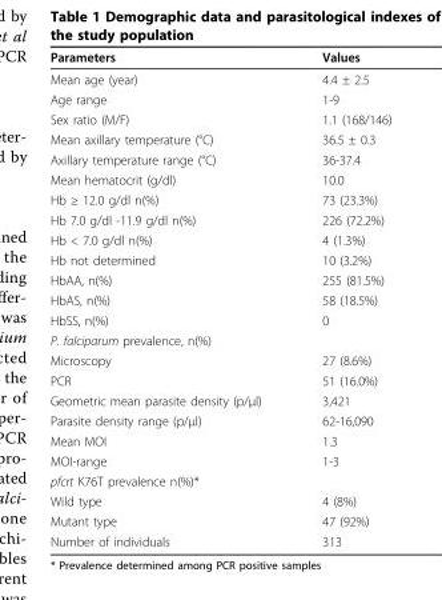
<table><thead><tr><td>Parameters</td><td>Values</td></tr></thead><tbody><tr><td>Mean age (year)</td><td>4.4 ± 2.5</td></tr><tr><td>Age range</td><td>1-9</td></tr><tr><td>Sex ratio (M/F)</td><td>1.1 (168/146)</td></tr><tr><td>Mean axillary temperature (°C)</td><td>36.5 ± 0.3</td></tr><tr><td>Axillary temperature range (°C)</td><td>36-37.4</td></tr><tr><td>Mean hematocrit (g/dl)</td><td>10.0</td></tr><tr><td>Hb ≥ 12.0 g/dl n(%)</td><td>73 (23.3%)</td></tr><tr><td>Hb 7.0 g/dl -11.9 g/dl n(%)</td><td>226 (72.2%)</td></tr><tr><td>Hb &lt; 7.0 g/dl n(%)</td><td>4 (1.3%)</td></tr><tr><td>Hb not determined</td><td>10 (3.2%)</td></tr><tr><td>HbAA, n(%)</td><td>255 (81.5%)</td></tr><tr><td>HbAS, n(%)</td><td>58 (18.5%)</td></tr><tr><td>HbSS, n(%)</td><td>0</td></tr><tr><td colspan="2">P. falciparum prevalence, n(%)</td></tr><tr><td>Microscopy</td><td>27 (8.6%)</td></tr><tr><td>PCR</td><td>51 (16.0%)</td></tr><tr><td>Geometric mean parasite density (p/μl)</td><td>3,421</td></tr><tr><td>Parasite density range (p/μl)</td><td>62-16,090</td></tr><tr><td>Mean MOI</td><td>1.3</td></tr><tr><td>MOI-range</td><td>1-3</td></tr><tr><td colspan="2">pfcrt K76T prevalence n(%)*</td></tr><tr><td>Wild type</td><td>4 (8%)</td></tr><tr><td>Mutant type</td><td>47 (92%)</td></tr><tr><td>Number of individuals</td><td>313</td></tr></tbody></table>